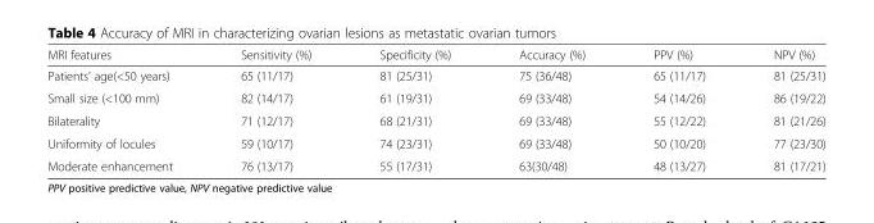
<table><thead><tr><td>MRI features</td><td>Sensitivity (%)</td><td>Specificity (%)</td><td>Accuracy (%)</td><td>PPV (%)</td><td>NPV (%)</td></tr></thead><tbody><tr><td>Patients’ age(&lt;50 years)</td><td>65 (11/17)</td><td>81 (25/31)</td><td>75 (36/48)</td><td>65 (11/17)</td><td>81 (25/31)</td></tr><tr><td>Small size (&lt;100 mm)</td><td>82 (14/17)</td><td>61 (19/31)</td><td>69 (33/48)</td><td>54 (14/26)</td><td>86 (19/22)</td></tr><tr><td>Bilaterality</td><td>71 (12/17)</td><td>68 (21/31)</td><td>69 (33/48)</td><td>55 (12/22)</td><td>81 (21/26)</td></tr><tr><td>Uniformity of locules</td><td>59 (10/17)</td><td>74 (23/31)</td><td>69 (33/48)</td><td>50 (10/20)</td><td>77 (23/30)</td></tr><tr><td>Moderate enhancement</td><td>76 (13/17)</td><td>55 (17/31)</td><td>63(30/48)</td><td>48 (13/27)</td><td>81 (17/21)</td></tr></tbody></table>